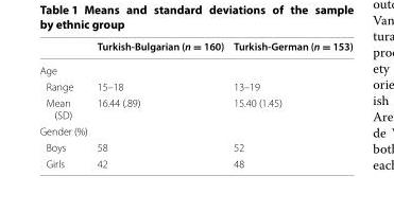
<table><thead><tr><td></td><td>Turkish-Bulgarian (n = 160)</td><td>Turkish-German (n = 153)</td></tr></thead><tbody><tr><td colspan="3">Age</td></tr><tr><td>Range</td><td>15–18</td><td>13–19</td></tr><tr><td>Mean (SD)</td><td>16.44 (.89)</td><td>15.40 (1.45)</td></tr><tr><td colspan="3">Gender (%)</td></tr><tr><td>Boys</td><td>58</td><td>52</td></tr><tr><td>Girls</td><td>42</td><td>48</td></tr></tbody></table>